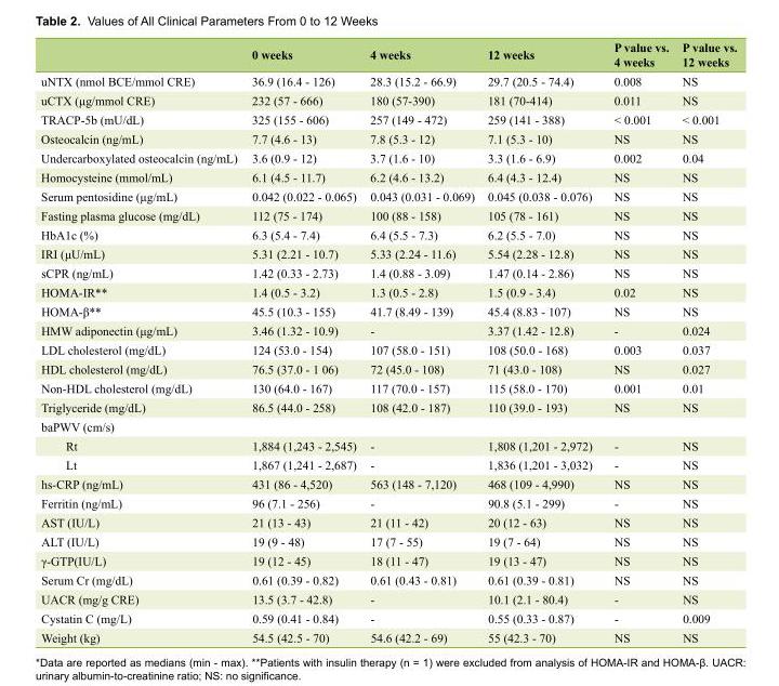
<table><thead><tr><td></td><td>0 weeks</td><td>4 weeks</td><td>12 weeks</td><td>P value vs. 4 weeks</td><td>P value vs. 12 weeks</td></tr></thead><tbody><tr><td>uNTX (nmol BCE/mmol CRE)</td><td>36.9 (16.4 - 126)</td><td>28.3 (15.2 - 66.9)</td><td>29.7 (20.5 - 74.4)</td><td>0.008</td><td>NS</td></tr><tr><td>uCTX (μg/mmol CRE)</td><td>232 (57 - 666)</td><td>180 (57-390)</td><td>181 (70-414)</td><td>0.011</td><td>NS</td></tr><tr><td>TRACP-5b (mU/dL)</td><td>325 (155 - 606)</td><td>257 (149 - 472)</td><td>259 (141 - 388)</td><td>&lt; 0.001</td><td>&lt; 0.001</td></tr><tr><td>Osteocalcin (ng/mL)</td><td>7.7 (4.6 - 13)</td><td>7.8 (5.3 - 12)</td><td>7.1 (5.3 - 10)</td><td>NS</td><td>NS</td></tr><tr><td>Undercarboxylated osteocalcin (ng/mL)</td><td>3.6 (0.9 - 12)</td><td>3.7 (1.6 - 10)</td><td>3.3 (1.6 - 6.9)</td><td>0.002</td><td>0.04</td></tr><tr><td>Homocysteine (mmol/mL)</td><td>6.1 (4.5 - 11.7)</td><td>6.2 (4.6 - 13.2)</td><td>6.4 (4.3 - 12.4)</td><td>NS</td><td>NS</td></tr><tr><td>Serum pentosidine (μg/mL)</td><td>0.042 (0.022 - 0.065)</td><td>0.043 (0.031 - 0.069)</td><td>0.045 (0.038 - 0.076)</td><td>NS</td><td>NS</td></tr><tr><td>Fasting plasma glucose (mg/dL)</td><td>112 (75 - 174)</td><td>100 (88 - 158)</td><td>105 (78 - 161)</td><td>NS</td><td>NS</td></tr><tr><td>HbA1c (%)</td><td>6.3 (5.4 - 7.4)</td><td>6.4 (5.5 - 7.3)</td><td>6.2 (5.5 - 7.0)</td><td>NS</td><td>NS</td></tr><tr><td>IRI (μU/mL)</td><td>5.31 (2.21 - 10.7)</td><td>5.33 (2.24 - 11.6)</td><td>5.54 (2.28 - 12.8)</td><td>NS</td><td>NS</td></tr><tr><td>sCPR (ng/mL)</td><td>1.42 (0.33 - 2.73)</td><td>1.4 (0.88 - 3.09)</td><td>1.47 (0.14 - 2.86)</td><td>NS</td><td>NS</td></tr><tr><td>HOMA-IR**</td><td>1.4 (0.5 - 3.2)</td><td>1.3 (0.5 - 2.8)</td><td>1.5 (0.9 - 3.4)</td><td>0.02</td><td>NS</td></tr><tr><td>HOMA-β**</td><td>45.5 (10.3 - 155)</td><td>41.7 (8.49 - 139)</td><td>45.4 (8.83 - 107)</td><td>NS</td><td>NS</td></tr><tr><td>HMW adiponectin (μg/mL)</td><td>3.46 (1.32 - 10.9)</td><td>-</td><td>3.37 (1.42 - 12.8)</td><td>-</td><td>0.024</td></tr><tr><td>LDL cholesterol (mg/dL)</td><td>124 (53.0 - 154)</td><td>107 (58.0 - 151)</td><td>108 (50.0 - 168)</td><td>0.003</td><td>0.037</td></tr><tr><td>HDL cholesterol (mg/dL)</td><td>76.5 (37.0 - 1 06)</td><td>72 (45.0 - 108)</td><td>71 (43.0 - 108)</td><td>NS</td><td>0.027</td></tr><tr><td>Non-HDL cholesterol (mg/dL)</td><td>130 (64.0 - 167)</td><td>117 (70.0 - 157)</td><td>115 (58.0 - 170)</td><td>0.001</td><td>0.01</td></tr><tr><td>Triglyceride (mg/dL)</td><td>86.5 (44.0 - 258)</td><td>108 (42.0 - 187)</td><td>110 (39.0 - 193)</td><td>NS</td><td>NS</td></tr><tr><td colspan="6">baPWV (cm/s)</td></tr><tr><td>Rt</td><td>1,884 (1,243 - 2,545)</td><td>-</td><td>1,808 (1,201 - 2,972)</td><td>-</td><td>NS</td></tr><tr><td>Lt</td><td>1,867 (1,241 - 2,687)</td><td>-</td><td>1,836 (1,201 - 3,032)</td><td>-</td><td>NS</td></tr><tr><td>hs-CRP (ng/mL)</td><td>431 (86 - 4,520)</td><td>563 (148 - 7,120)</td><td>468 (109 - 4,990)</td><td>NS</td><td>NS</td></tr><tr><td>Ferritin (ng/mL)</td><td>96 (7.1 - 256)</td><td>-</td><td>90.8 (5.1 - 299)</td><td>-</td><td>NS</td></tr><tr><td>AST (IU/L)</td><td>21 (13 - 43)</td><td>21 (11 - 42)</td><td>20 (12 - 63)</td><td>NS</td><td>NS</td></tr><tr><td>ALT (IU/L)</td><td>19 (9 - 48)</td><td>17 (7 - 55)</td><td>19 (7 - 64)</td><td>NS</td><td>NS</td></tr><tr><td>γ-GTP(IU/L)</td><td>19 (12 - 45)</td><td>18 (11 - 47)</td><td>19 (13 - 47)</td><td>NS</td><td>NS</td></tr><tr><td>Serum Cr (mg/dL)</td><td>0.61 (0.39 - 0.82)</td><td>0.61 (0.43 - 0.81)</td><td>0.61 (0.39 - 0.81)</td><td>NS</td><td>NS</td></tr><tr><td>UACR (mg/g CRE)</td><td>13.5 (3.7 - 42.8)</td><td>-</td><td>10.1 (2.1 - 80.4)</td><td>-</td><td>NS</td></tr><tr><td>Cystatin C (mg/L)</td><td>0.59 (0.41 - 0.84)</td><td>-</td><td>0.55 (0.33 - 0.87)</td><td>-</td><td>0.009</td></tr><tr><td>Weight (kg)</td><td>54.5 (42.5 - 70)</td><td>54.6 (42.2 - 69)</td><td>55 (42.3 - 70)</td><td>NS</td><td>NS</td></tr></tbody></table>